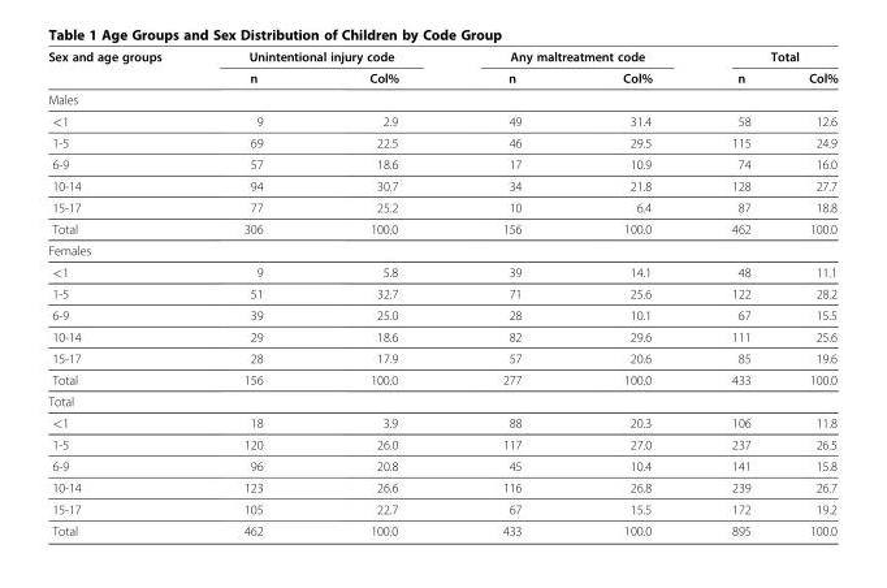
<table><thead><tr><td rowspan="2">Sex and age groups</td><td colspan="2">Unintentional injury code</td><td colspan="2">Any maltreatment code</td><td colspan="2">Total</td></tr><tr><td>n</td><td>Col%</td><td>n</td><td>Col%</td><td>n</td><td>Col%</td></tr></thead><tbody><tr><td colspan="7">Males</td></tr><tr><td>&lt;1</td><td>9</td><td>2.9</td><td>49</td><td>31.4</td><td>58</td><td>12.6</td></tr><tr><td>1-5</td><td>69</td><td>22.5</td><td>46</td><td>29.5</td><td>115</td><td>24.9</td></tr><tr><td>6-9</td><td>57</td><td>18.6</td><td>17</td><td>10.9</td><td>74</td><td>16.0</td></tr><tr><td>10-14</td><td>94</td><td>30.7</td><td>34</td><td>21.8</td><td>128</td><td>27.7</td></tr><tr><td>15-17</td><td>77</td><td>25.2</td><td>10</td><td>6.4</td><td>87</td><td>18.8</td></tr><tr><td>Total</td><td>306</td><td>100.0</td><td>156</td><td>100.0</td><td>462</td><td>100.0</td></tr><tr><td colspan="7">Females</td></tr><tr><td>&lt;1</td><td>9</td><td>5.8</td><td>39</td><td>14.1</td><td>48</td><td>11.1</td></tr><tr><td>1-5</td><td>51</td><td>32.7</td><td>71</td><td>25.6</td><td>122</td><td>28.2</td></tr><tr><td>6-9</td><td>39</td><td>25.0</td><td>28</td><td>10.1</td><td>67</td><td>15.5</td></tr><tr><td>10-14</td><td>29</td><td>18.6</td><td>82</td><td>29.6</td><td>111</td><td>25.6</td></tr><tr><td>15-17</td><td>28</td><td>17.9</td><td>57</td><td>20.6</td><td>85</td><td>19.6</td></tr><tr><td>Total</td><td>156</td><td>100.0</td><td>277</td><td>100.0</td><td>433</td><td>100.0</td></tr><tr><td colspan="7">Total</td></tr><tr><td>&lt;1</td><td>18</td><td>3.9</td><td>88</td><td>20.3</td><td>106</td><td>11.8</td></tr><tr><td>1-5</td><td>120</td><td>26.0</td><td>117</td><td>27.0</td><td>237</td><td>26.5</td></tr><tr><td>6-9</td><td>96</td><td>20.8</td><td>45</td><td>10.4</td><td>141</td><td>15.8</td></tr><tr><td>10-14</td><td>123</td><td>26.6</td><td>116</td><td>26.8</td><td>239</td><td>26.7</td></tr><tr><td>15-17</td><td>105</td><td>22.7</td><td>67</td><td>15.5</td><td>172</td><td>19.2</td></tr><tr><td>Total</td><td>462</td><td>100.0</td><td>433</td><td>100.0</td><td>895</td><td>100.0</td></tr></tbody></table>